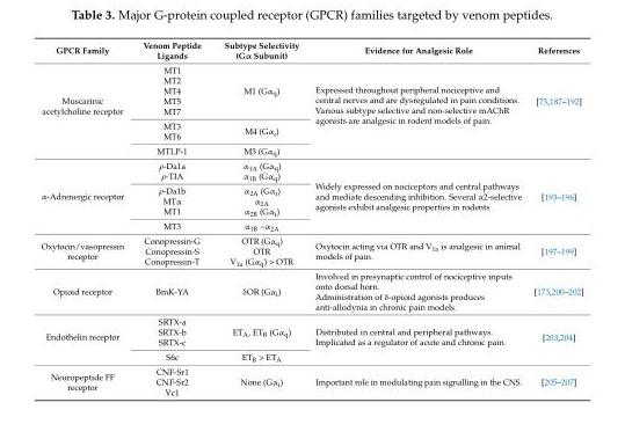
<table><thead><tr><td>GPCR Family</td><td>Venom Peptide Ligands</td><td>Subtype Selectivity (Gα Subunit)</td><td>Evidence for Analgesic Role</td><td>References</td></tr></thead><tbody><tr><td rowspan="3">Muscarinic acetylcholine receptor</td><td>MT1 MT2 MT4 MT5 MT7</td><td>M1 (Gα<sub>q</sub>)</td><td rowspan="3">Expressed throughout peripheral nociceptive and central nerves and are dysregulated in pain conditions. Various subtype selective and non-selective mAChR agonists are analgesic in rodent models of pain.</td><td rowspan="3">[73,187–192]</td></tr><tr><td>MT3 MT6</td><td>M4 (Gα<sub>i</sub>)</td></tr><tr><td>MTLP-1</td><td>M3 (Gα<sub>q</sub>)</td></tr><tr><td rowspan="3">α-Adrenergic receptor</td><td>ρ-Da1a ρ-TIA</td><td>α<sub>1A</sub> (Gα<sub>q</sub>) α<sub>1B</sub> (Gα<sub>q</sub>)</td><td rowspan="3">Widely expressed on nociceptors and central pathways and mediate descending inhibition. Several α2-selective agonists exhibit analgesic properties in rodents</td><td rowspan="3">[193–196]</td></tr><tr><td>ρ-Da1b MTα MT1</td><td>α<sub>2A</sub> (Gα<sub>i</sub>) α<sub>2A</sub> α<sub>2B</sub> (Gα<sub>i</sub>)</td></tr><tr><td>MT3</td><td>α<sub>1B</sub> ~α<sub>2A</sub></td></tr><tr><td>Oxytocin/vasopressin receptor</td><td>Conopressin-G Conopressin-S Conopressin-T</td><td>OTR (Gα<sub>q</sub>) OTR V<sub>1a</sub> (Gα<sub>q</sub>) &gt; OTR</td><td>Oxytocin acting via OTR and V<sub>1a</sub> is analgesic in animal models of pain.</td><td>[197–199]</td></tr><tr><td>Opioid receptor</td><td>BmK-YA</td><td>δOR (Gα<sub>i</sub>)</td><td>Involved in presynaptic control of nociceptive inputs onto dorsal horn. Administration of δ-opioid agonists produces anti-allodynia in chronic pain models.</td><td>[173,200–202]</td></tr><tr><td rowspan="2">Endothelin receptor</td><td>SRTX-a SRTX-b SRTX-c</td><td>ET<sub>A</sub>, ET<sub>B</sub> (Gα<sub>q</sub>)</td><td rowspan="2">Distributed in central and peripheral pathways. Implicated as a regulator of acute and chronic pain.</td><td rowspan="2">[203,204]</td></tr><tr><td>S6c</td><td>ET<sub>B</sub> &gt; ET<sub>A</sub></td></tr><tr><td>Neuropeptide FF receptor</td><td>CNF-Sr1 CNF-Sr2 Vc1</td><td>None (Gα<sub>i</sub>)</td><td>Important role in modulating pain signalling in the CNS.</td><td>[205–207]</td></tr></tbody></table>